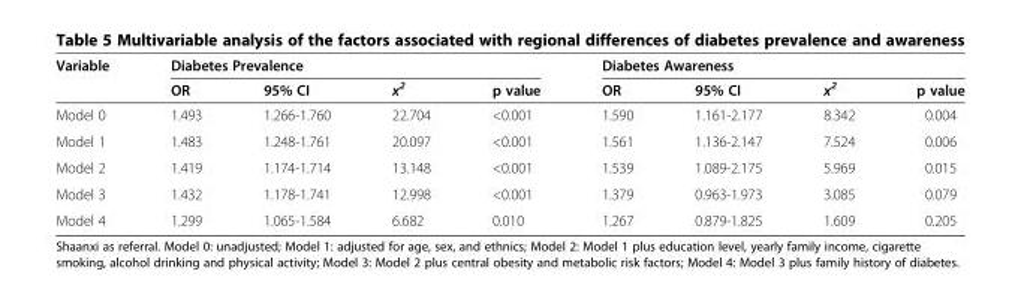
<table><thead><tr><td rowspan="2">Variable</td><td colspan="4">Diabetes Prevalence</td><td colspan="4">Diabetes Awareness</td></tr><tr><td>OR</td><td>95% CI</td><td>x<sup>2</sup></td><td>p value</td><td>OR</td><td>95% CI</td><td>x<sup>2</sup></td><td>p value</td></tr></thead><tbody><tr><td>Model 0</td><td>1.493</td><td>1.266-1.760</td><td>22.704</td><td>&lt;0.001</td><td>1.590</td><td>1.161-2.177</td><td>8.342</td><td>0.004</td></tr><tr><td>Model 1</td><td>1.483</td><td>1.248-1.761</td><td>20.097</td><td>&lt;0.001</td><td>1.561</td><td>1.136-2.147</td><td>7.524</td><td>0.006</td></tr><tr><td>Model 2</td><td>1.419</td><td>1.174-1.714</td><td>13.148</td><td>&lt;0.001</td><td>1.539</td><td>1.089-2.175</td><td>5.969</td><td>0.015</td></tr><tr><td>Model 3</td><td>1.432</td><td>1.178-1.741</td><td>12.998</td><td>&lt;0.001</td><td>1.379</td><td>0.963-1.973</td><td>3.085</td><td>0.079</td></tr><tr><td>Model 4</td><td>1.299</td><td>1.065-1.584</td><td>6.682</td><td>0.010</td><td>1.267</td><td>0.879-1.825</td><td>1.609</td><td>0.205</td></tr></tbody></table>